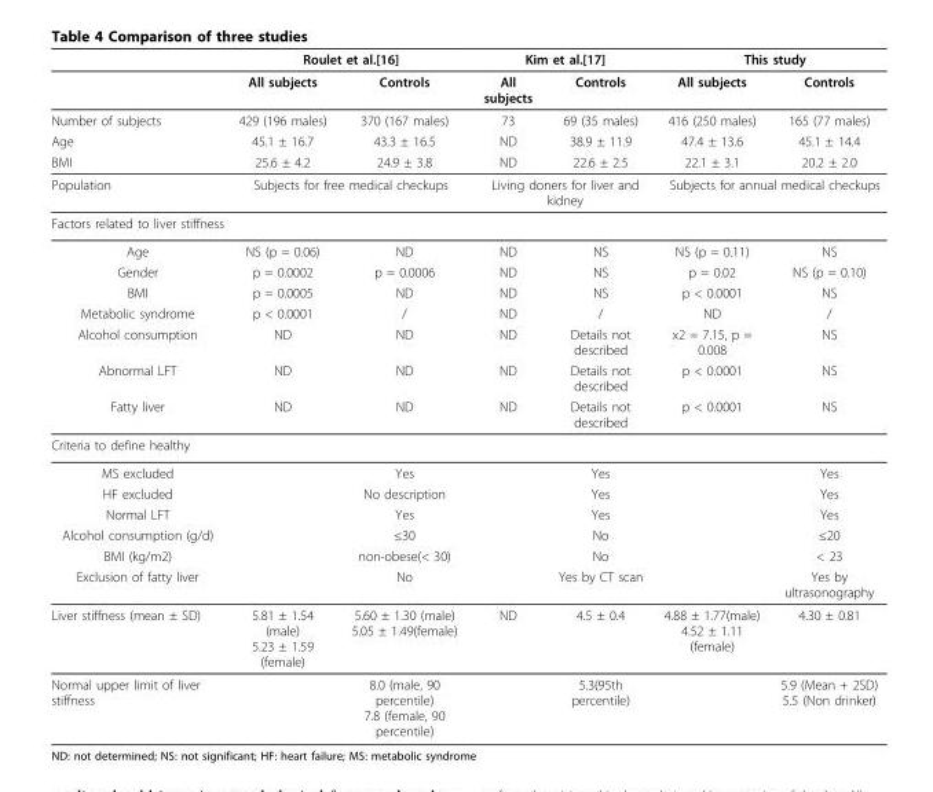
<table><thead><tr><td rowspan="2"></td><td colspan="2">Roulet et al.[16]</td><td colspan="2">Kim et al.[17]</td><td colspan="2">This study</td></tr><tr><td>All subjects</td><td>Controls</td><td>All subjects</td><td>Controls</td><td>All subjects</td><td>Controls</td></tr></thead><tbody><tr><td>Number of subjects</td><td>429 (196 males)</td><td>370 (167 males)</td><td>73</td><td>69 (35 males)</td><td>416 (250 males)</td><td>165 (77 males)</td></tr><tr><td>Age</td><td>45.1 ± 16.7</td><td>43.3 ± 16.5</td><td>ND</td><td>38.9 ± 11.9</td><td>47.4 ± 13.6</td><td>45.1 ± 14.4</td></tr><tr><td>BMI</td><td>25.6 ± 4.2</td><td>24.9 ± 3.8</td><td>ND</td><td>22.6 ± 2.5</td><td>22.1 ± 3.1</td><td>20.2 ± 2.0</td></tr><tr><td>Population</td><td colspan="2">Subjects for free medical checkups</td><td colspan="2">Living doners for liver and kidney</td><td colspan="2">Subjects for annual medical checkups</td></tr><tr><td colspan="7">Factors related to liver stiffness</td></tr><tr><td>Age</td><td>NS (p = 0.06)</td><td>ND</td><td>ND</td><td>NS</td><td>NS (p = 0.11)</td><td>NS</td></tr><tr><td>Gender</td><td>p = 0.0002</td><td>p = 0.0006</td><td>ND</td><td>NS</td><td>p = 0.02</td><td>NS (p = 0.10)</td></tr><tr><td>BMI</td><td>p = 0.0005</td><td>ND</td><td>ND</td><td>NS</td><td>p &lt; 0.0001</td><td>NS</td></tr><tr><td>Metabolic syndrome</td><td>p &lt; 0.0001</td><td>/</td><td>ND</td><td>/</td><td>ND</td><td>/</td></tr><tr><td>Alcohol consumption</td><td>ND</td><td>ND</td><td>ND</td><td>Details not described</td><td>x2 = 7.15, p = 0.008</td><td>NS</td></tr><tr><td>Abnormal LFT</td><td>ND</td><td>ND</td><td>ND</td><td>Details not described</td><td>p &lt; 0.0001</td><td>NS</td></tr><tr><td>Fatty liver</td><td>ND</td><td>ND</td><td>ND</td><td>Details not described</td><td>p &lt; 0.0001</td><td>NS</td></tr><tr><td colspan="7">Criteria to define healthy</td></tr><tr><td>MS excluded</td><td></td><td>Yes</td><td></td><td>Yes</td><td></td><td>Yes</td></tr><tr><td>HF excluded</td><td></td><td>No description</td><td></td><td>Yes</td><td></td><td>Yes</td></tr><tr><td>Normal LFT</td><td></td><td>Yes</td><td></td><td>Yes</td><td></td><td>Yes</td></tr><tr><td>Alcohol consumption (g/d)</td><td></td><td>≤30</td><td></td><td>No</td><td></td><td>≤20</td></tr><tr><td>BMI (kg/m2)</td><td></td><td>non-obese(&lt; 30)</td><td></td><td>No</td><td></td><td>&lt; 23</td></tr><tr><td>Exclusion of fatty liver</td><td></td><td>No</td><td></td><td>Yes by CT scan</td><td></td><td>Yes by ultrasonography</td></tr><tr><td>Liver stiffness (mean ± SD)</td><td>5.81 ± 1.54 (male) 5.23 ± 1.59 (female)</td><td>5.60 ± 1.30 (male) 5.05 ± 1.49(female)</td><td>ND</td><td>4.5 ± 0.4</td><td>4.88 ± 1.77(male) 4.52 ± 1.11 (female)</td><td>4.30 ± 0.81</td></tr><tr><td>Normal upper limit of liver stiffness</td><td></td><td>8.0 (male, 90 percentile) 7.8 (female, 90 percentile)</td><td></td><td>5.3(95th percentile)</td><td></td><td>5.9 (Mean + 2SD) 5.5 (Non drinker)</td></tr></tbody></table>